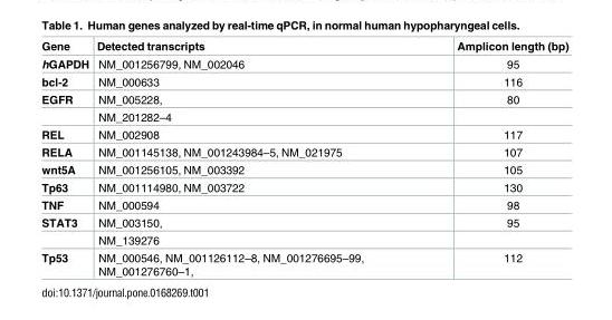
<table><thead><tr><td>Gene</td><td>Detected transcripts</td><td>Amplicon length (bp)</td></tr></thead><tbody><tr><td>hGAPDH</td><td>NM_001256799, NM_002046</td><td>95</td></tr><tr><td>bcl-2</td><td>NM_000633</td><td>116</td></tr><tr><td rowspan="2">EGFR</td><td>NM_005228,</td><td>80</td></tr><tr><td>NM_201282–4</td><td></td></tr><tr><td>REL</td><td>NM_002908</td><td>117</td></tr><tr><td>RELA</td><td>NM_001145138, NM_001243984–5, NM_021975</td><td>107</td></tr><tr><td>wnt5A</td><td>NM_001256105, NM_003392</td><td>105</td></tr><tr><td>Tp63</td><td>NM_001114980, NM_003722</td><td>130</td></tr><tr><td>TNF</td><td>NM_000594</td><td>98</td></tr><tr><td rowspan="2">STAT3</td><td>NM_003150,</td><td>95</td></tr><tr><td>NM_139276</td><td></td></tr><tr><td>Tp53</td><td>NM_000546, NM_001126112–8, NM_001276695–99, NM_001276760–1,</td><td>112</td></tr></tbody></table>